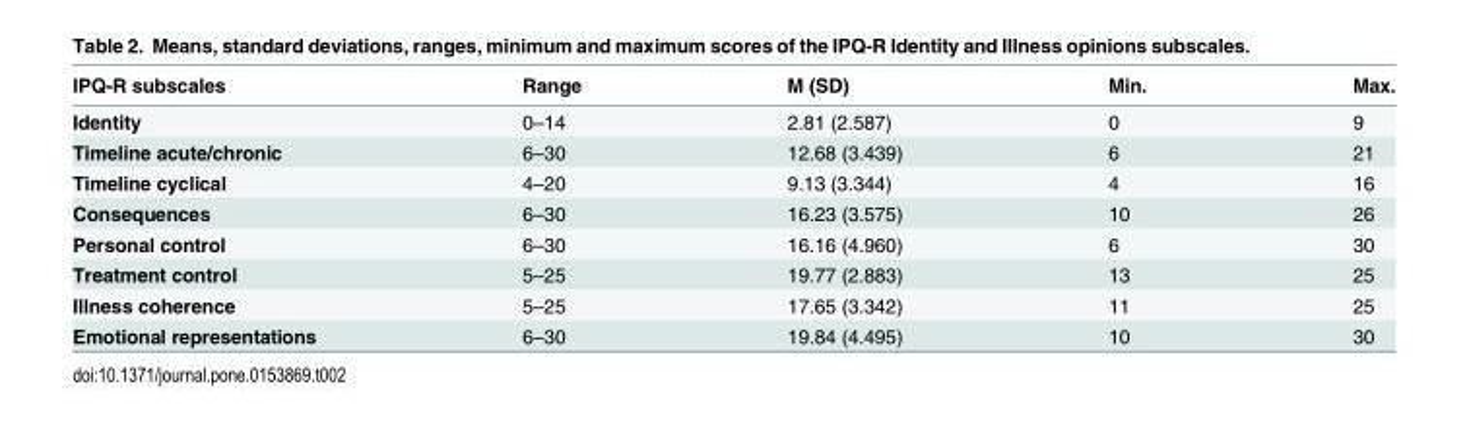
<table><thead><tr><td>IPQ-R subscales</td><td>Range</td><td>M (SD)</td><td>Min.</td><td>Max.</td></tr></thead><tbody><tr><td>Identity</td><td>0–14</td><td>2.81 (2.587)</td><td>0</td><td>9</td></tr><tr><td>Timeline acute/chronic</td><td>6–30</td><td>12.68 (3.439)</td><td>6</td><td>21</td></tr><tr><td>Timeline cyclical</td><td>4–20</td><td>9.13 (3.344)</td><td>4</td><td>16</td></tr><tr><td>Consequences</td><td>6–30</td><td>16.23 (3.575)</td><td>10</td><td>26</td></tr><tr><td>Personal control</td><td>6–30</td><td>16.16 (4.960)</td><td>6</td><td>30</td></tr><tr><td>Treatment control</td><td>5–25</td><td>19.77 (2.883)</td><td>13</td><td>25</td></tr><tr><td>Illness coherence</td><td>5–25</td><td>17.65 (3.342)</td><td>11</td><td>25</td></tr><tr><td>Emotional representations</td><td>6–30</td><td>19.84 (4.495)</td><td>10</td><td>30</td></tr></tbody></table>